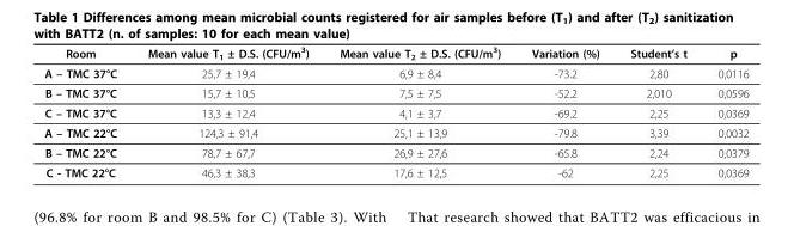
<table><thead><tr><td>Room</td><td>Mean value T<sub>1</sub> ± D.S. (CFU/m<sup>3</sup>)</td><td>Mean value T<sub>2</sub> ± D.S. (CFU/m<sup>3</sup>)</td><td>Variation (%)</td><td>Student’s t</td><td>p</td></tr></thead><tbody><tr><td>A – TMC 37°C</td><td>25,7 ± 19,4</td><td>6,9 ± 8,4</td><td>-73.2</td><td>2,80</td><td>0,0116</td></tr><tr><td>B – TMC 37°C</td><td>15,7 ± 10,5</td><td>7,5 ± 7,5</td><td>-52.2</td><td>2,010</td><td>0,0596</td></tr><tr><td>C – TMC 37°C</td><td>13,3 ± 12,4</td><td>4,1 ± 3,7</td><td>-69.2</td><td>2,25</td><td>0,0369</td></tr><tr><td>A – TMC 22°C</td><td>124,3 ± 91,4</td><td>25,1 ± 13,9</td><td>-79.8</td><td>3,39</td><td>0,0032</td></tr><tr><td>B – TMC 22°C</td><td>78,7 ± 67,7</td><td>26,9 ± 27,6</td><td>-65.8</td><td>2,24</td><td>0,0379</td></tr><tr><td>C - TMC 22°C</td><td>46,3 ± 38,3</td><td>17,6 ± 12,5</td><td>-62</td><td>2,25</td><td>0,0369</td></tr></tbody></table>